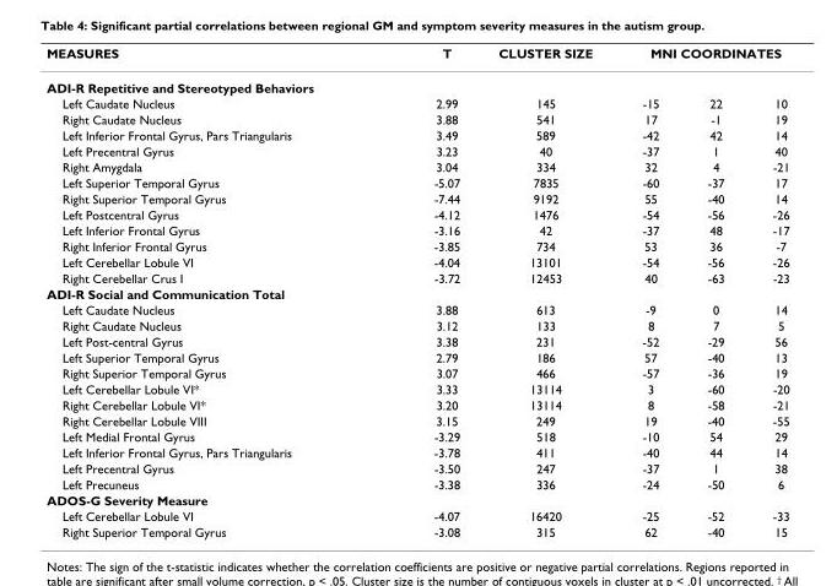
<table><thead><tr><td rowspan="2">MEASURES ADI-R Repetitive and Stereotyped Behaviors</td><td rowspan="2">T</td><td rowspan="2">CLUSTER SIZE</td><td colspan="3">MNI COORDINATES</td></tr><tr><td></td><td></td><td></td></tr></thead><tbody><tr><td>Left Caudate Nucleus</td><td>2.99</td><td>145</td><td>-15</td><td>22</td><td>10</td></tr><tr><td>Right Caudate Nucleus</td><td>3.88</td><td>541</td><td>17</td><td>-1</td><td>19</td></tr><tr><td>Left Inferior Frontal Gyrus, Pars Triangularis</td><td>3.49</td><td>589</td><td>-42</td><td>42</td><td>14</td></tr><tr><td>Left Precentral Gyrus</td><td>3.23</td><td>40</td><td>-37</td><td>1</td><td>40</td></tr><tr><td>Right Amygdala</td><td>3.04</td><td>334</td><td>32</td><td>4</td><td>-21</td></tr><tr><td>Left Superior Temporal Gyrus</td><td>-5.07</td><td>7835</td><td>-60</td><td>-37</td><td>17</td></tr><tr><td>Right Superior Temporal Gyrus</td><td>-7.44</td><td>9192</td><td>55</td><td>-40</td><td>14</td></tr><tr><td>Left Postcentral Gyrus</td><td>-4.12</td><td>1476</td><td>-54</td><td>-56</td><td>-26</td></tr><tr><td>Left Inferior Frontal Gyrus</td><td>-3.16</td><td>42</td><td>-37</td><td>48</td><td>-17</td></tr><tr><td>Right Inferior Frontal Gyrus</td><td>-3.85</td><td>734</td><td>53</td><td>36</td><td>-7</td></tr><tr><td>Left Cerebellar Lobule VI</td><td>-4.04</td><td>13101</td><td>-54</td><td>-56</td><td>-26</td></tr><tr><td>Right Cerebellar Crus I</td><td>-3.72</td><td>12453</td><td>40</td><td>-63</td><td>-23</td></tr><tr><td colspan="6">ADI-R Social and Communication Total</td></tr><tr><td>Left Caudate Nucleus</td><td>3.88</td><td>613</td><td>-9</td><td>0</td><td>14</td></tr><tr><td>Right Caudate Nucleus</td><td>3.12</td><td>133</td><td>8</td><td>7</td><td>5</td></tr><tr><td>Left Post-central Gyrus</td><td>3.38</td><td>231</td><td>-52</td><td>-29</td><td>56</td></tr><tr><td>Left Superior Temporal Gyrus</td><td>2.79</td><td>186</td><td>57</td><td>-40</td><td>13</td></tr><tr><td>Right Superior Temporal Gyrus</td><td>3.07</td><td>466</td><td>-57</td><td>-36</td><td>19</td></tr><tr><td>Left Cerebellar Lobule VI*</td><td>3.33</td><td>13114</td><td>3</td><td>-60</td><td>-20</td></tr><tr><td>Right Cerebellar Lobule VI*</td><td>3.20</td><td>13114</td><td>8</td><td>-58</td><td>-21</td></tr><tr><td>Right Cerebellar Lobule VIII</td><td>3.15</td><td>249</td><td>19</td><td>-40</td><td>-55</td></tr><tr><td>Left Medial Frontal Gyrus</td><td>-3.29</td><td>518</td><td>-10</td><td>54</td><td>29</td></tr><tr><td>Left Inferior Frontal Gyrus, Pars Triangularis</td><td>-3.78</td><td>411</td><td>-40</td><td>44</td><td>14</td></tr><tr><td>Left Precentral Gyrus</td><td>-3.50</td><td>247</td><td>-37</td><td>1</td><td>38</td></tr><tr><td>Left Precuneus</td><td>-3.38</td><td>336</td><td>-24</td><td>-50</td><td>6</td></tr><tr><td colspan="6">ADOS-G Severity Measure</td></tr><tr><td>Left Cerebellar Lobule VI</td><td>-4.07</td><td>16420</td><td>-25</td><td>-52</td><td>-33</td></tr><tr><td>Right Superior Temporal Gyrus</td><td>-3.08</td><td>315</td><td>62</td><td>-40</td><td>15</td></tr></tbody></table>